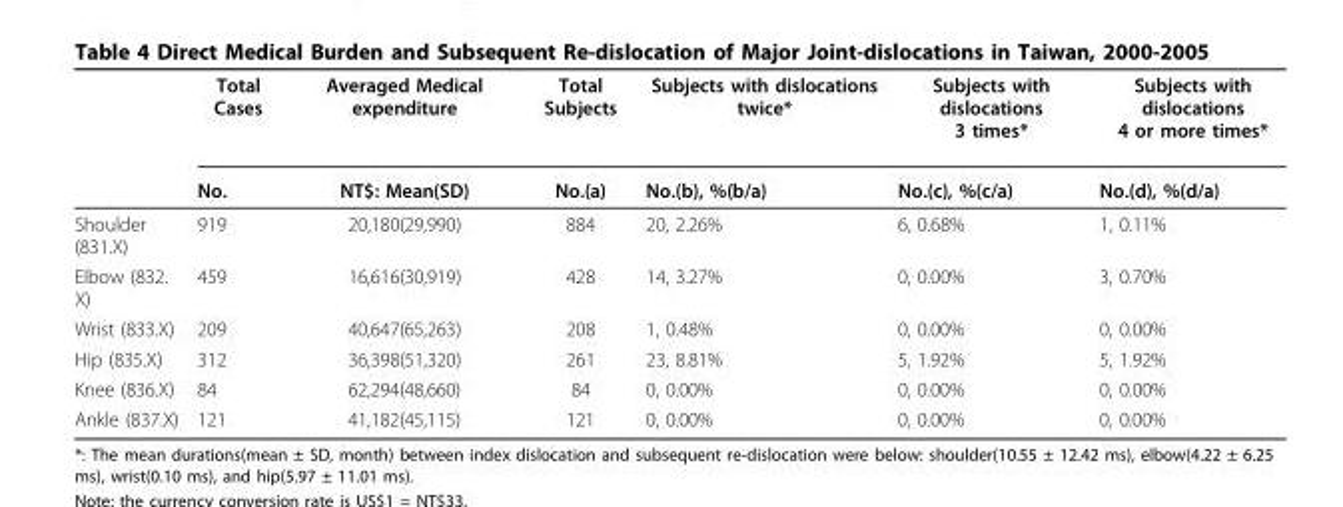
<table><thead><tr><td rowspan="2"></td><td rowspan="2">Total Cases No.</td><td rowspan="2">Averaged Medical expenditure NT$: Mean(SD)</td><td rowspan="2">Total Subjects No.(a)</td><td rowspan="2">Subjects with dislocations twice* No.(b), %(b/a)</td><td rowspan="2">Subjects with dislocations 3 times* No.(c), %(c/a)</td><td rowspan="2">Subjects with dislocations 4 or more times* No.(d), %(d/a)</td></tr><tr></tr></thead><tbody><tr><td>Shoulder (831.X)</td><td>919</td><td>20,180(29,990)</td><td>884</td><td>20, 2.26%</td><td>6, 0.68%</td><td>1, 0.11%</td></tr><tr><td>Elbow (832. X)</td><td>459</td><td>16,616(30,919)</td><td>428</td><td>14, 3.27%</td><td>0, 0.00%</td><td>3, 0.70%</td></tr><tr><td>Wrist (833.X)</td><td>209</td><td>40,647(65,263)</td><td>208</td><td>1, 0.48%</td><td>0, 0.00%</td><td>0, 0.00%</td></tr><tr><td>Hip (835.X)</td><td>312</td><td>36,398(51,320)</td><td>261</td><td>23, 8.81%</td><td>5, 1.92%</td><td>5, 1.92%</td></tr><tr><td>Knee (836.X)</td><td>84</td><td>62,294(48,660)</td><td>84</td><td>0, 0.00%</td><td>0, 0.00%</td><td>0, 0.00%</td></tr><tr><td>Ankle (837.X)</td><td>121</td><td>41,182(45,115)</td><td>121</td><td>0, 0.00%</td><td>0, 0.00%</td><td>0, 0.00%</td></tr></tbody></table>